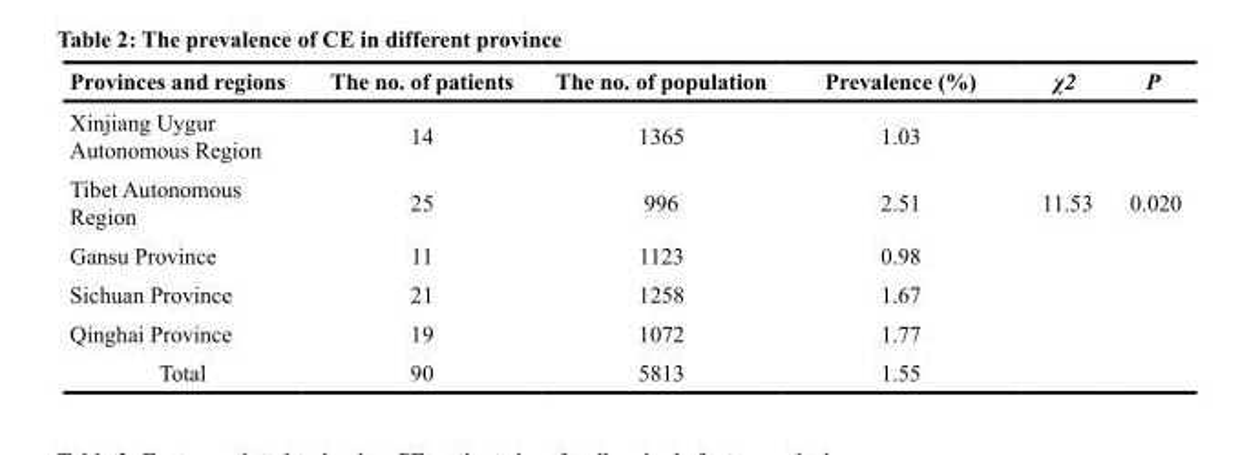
<table><thead><tr><td>Provinces and regions</td><td>The no. of patients</td><td>The no. of population</td><td>Prevalence (%)</td><td>χ2</td><td>P</td></tr></thead><tbody><tr><td>Xinjiang Uygur Autonomous Region</td><td>14</td><td>1365</td><td>1.03</td><td></td><td></td></tr><tr><td>Tibet Autonomous Region</td><td>25</td><td>996</td><td>2.51</td><td>11.53</td><td>0.020</td></tr><tr><td>Gansu Province</td><td>11</td><td>1123</td><td>0.98</td><td></td><td></td></tr><tr><td>Sichuan Province</td><td>21</td><td>1258</td><td>1.67</td><td></td><td></td></tr><tr><td>Qinghai Province</td><td>19</td><td>1072</td><td>1.77</td><td></td><td></td></tr><tr><td>Total</td><td>90</td><td>5813</td><td>1.55</td><td></td><td></td></tr></tbody></table>